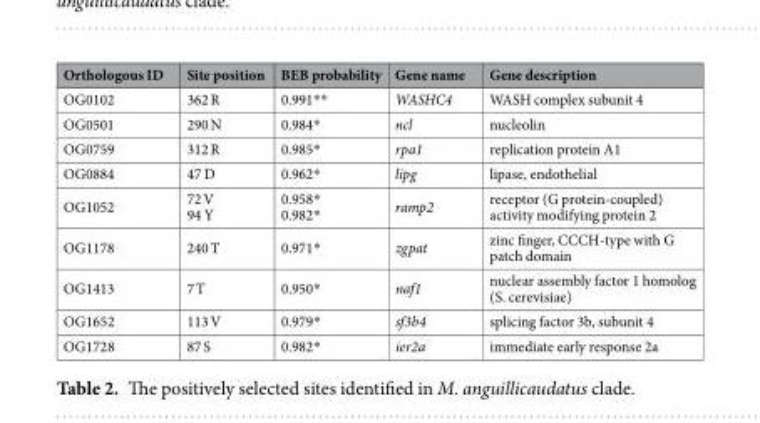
<table><thead><tr><td>Orthologous ID</td><td>Site position</td><td>BEB probability</td><td>Gene name</td><td>Gene description</td></tr></thead><tbody><tr><td>OG0102</td><td>362 R</td><td>0.991**</td><td>WASHC4</td><td>WASH complex subunit 4</td></tr><tr><td>OG0501</td><td>290 N</td><td>0.984*</td><td>ncl</td><td>nucleolin</td></tr><tr><td>OG0759</td><td>312 R</td><td>0.985*</td><td>rpa1</td><td>replication protein A1</td></tr><tr><td>OG0884</td><td>47 D</td><td>0.962*</td><td>lipg</td><td>lipase, endothelial</td></tr><tr><td>OG1052</td><td>72 V 94 Y</td><td>0.958* 0.982*</td><td>ramp2</td><td>receptor (G protein-coupled) activity modifying protein 2</td></tr><tr><td>OG1178</td><td>240 T</td><td>0.971*</td><td>zgpat</td><td>zinc finger, CCCH-type with G patch domain</td></tr><tr><td>OG1413</td><td>7 T</td><td>0.950*</td><td>naf1</td><td>nuclear assembly factor 1 homolog (S. cerevisiae)</td></tr><tr><td>OG1652</td><td>113 V</td><td>0.979*</td><td>sf3b4</td><td>splicing factor 3b, subunit 4</td></tr><tr><td>OG1728</td><td>87 S</td><td>0.982*</td><td>ier2a</td><td>immediate early response 2a</td></tr></tbody></table>